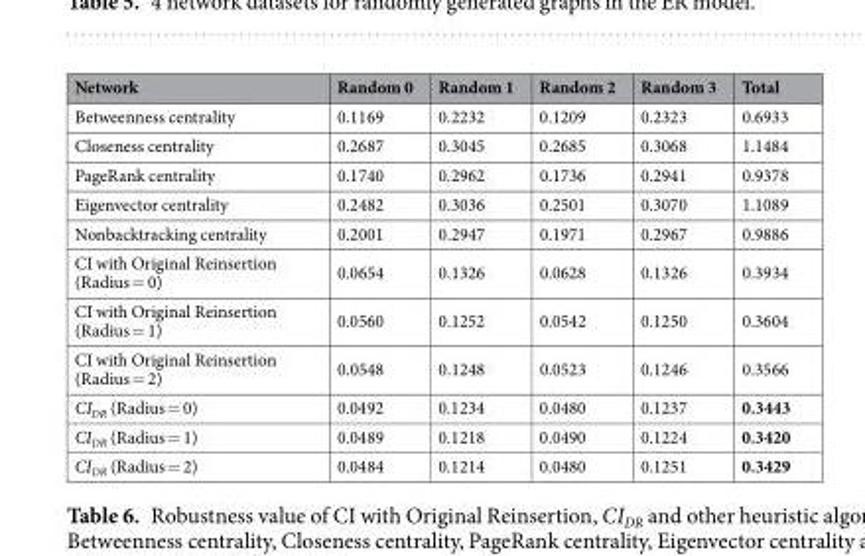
<table><thead><tr><td>Network</td><td>Random 0</td><td>Random 1</td><td>Random 2</td><td>Random 3</td><td>Total</td></tr></thead><tbody><tr><td>Betweenness centrality</td><td>0.1169</td><td>0.2232</td><td>0.1209</td><td>0.2323</td><td>0.6933</td></tr><tr><td>Closeness centrality</td><td>0.2687</td><td>0.3045</td><td>0.2685</td><td>0.3068</td><td>1.1484</td></tr><tr><td>PageRank centrality</td><td>0.1740</td><td>0.2962</td><td>0.1736</td><td>0.2941</td><td>0.9378</td></tr><tr><td>Eigenvector centrality</td><td>0.2482</td><td>0.3036</td><td>0.2501</td><td>0.3070</td><td>1.1089</td></tr><tr><td>Nonbacktracking centrality</td><td>0.2001</td><td>0.2947</td><td>0.1971</td><td>0.2967</td><td>0.9886</td></tr><tr><td>CI with Original Reinsertion (Radius = 0)</td><td>0.0654</td><td>0.1326</td><td>0.0628</td><td>0.1326</td><td>0.3934</td></tr><tr><td>CI with Original Reinsertion (Radius = 1)</td><td>0.0560</td><td>0.1252</td><td>0.0542</td><td>0.1250</td><td>0.3604</td></tr><tr><td>CI with Original Reinsertion (Radius = 2)</td><td>0.0548</td><td>0.1248</td><td>0.0523</td><td>0.1246</td><td>0.3566</td></tr><tr><td>CI<sub>DR</sub> (Radius = 0)</td><td>0.0492</td><td>0.1234</td><td>0.0480</td><td>0.1237</td><td>0.3443</td></tr><tr><td>CI<sub>DR</sub> (Radius = 1)</td><td>0.0489</td><td>0.1218</td><td>0.0490</td><td>0.1224</td><td>0.3420</td></tr><tr><td>CI<sub>DR</sub> (Radius = 2)</td><td>0.0484</td><td>0.1214</td><td>0.0480</td><td>0.1251</td><td>0.3429</td></tr></tbody></table>